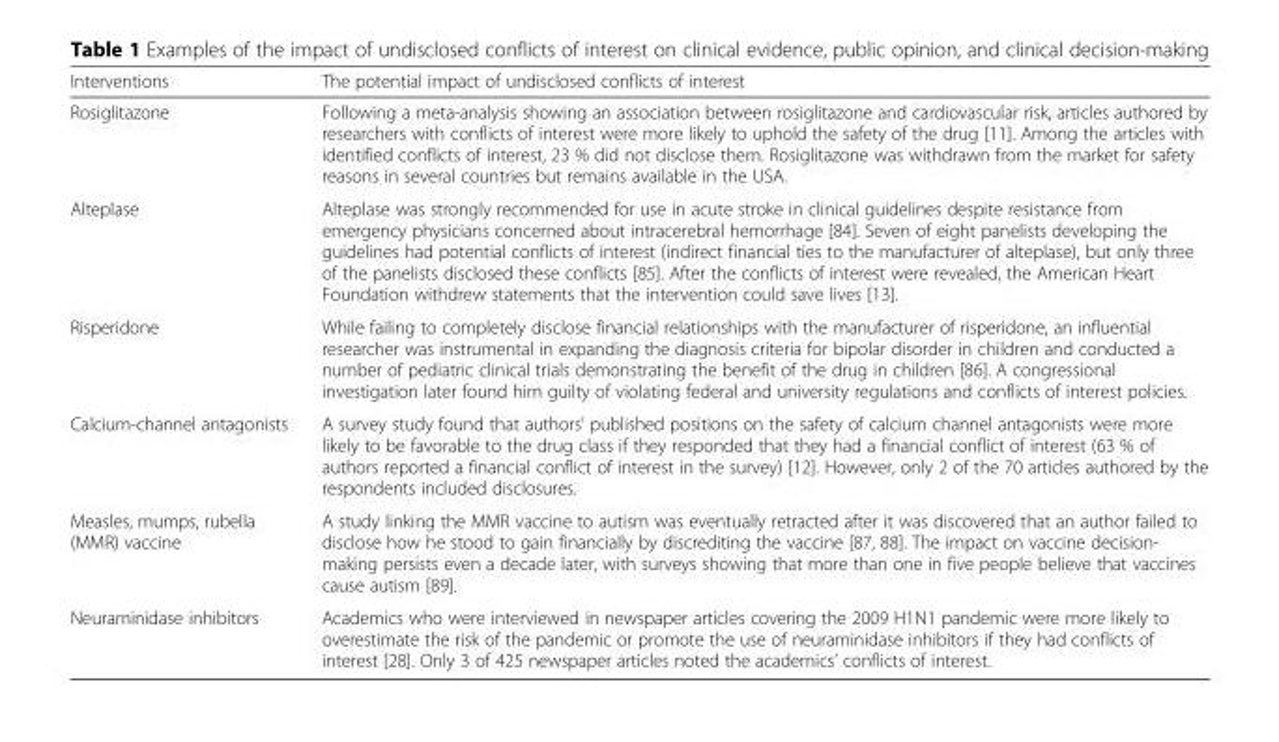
<table><thead><tr><td>Interventions</td><td>The potential impact of undisclosed conflicts of interest</td></tr></thead><tbody><tr><td>Rosiglitazone</td><td>Following a meta-analysis showing an association between rosiglitazone and cardiovascular risk, articles authored by researchers with conflicts of interest were more likely to uphold the safety of the drug [11]. Among the articles with identified conflicts of interest, 23 % did not disclose them. Rosiglitazone was withdrawn from the market for safety reasons in several countries but remains available in the USA.</td></tr><tr><td>Alteplase</td><td>Alteplase was strongly recommended for use in acute stroke in clinical guidelines despite resistance from emergency physicians concerned about intracerebral hemorrhage [84]. Seven of eight panelists developing the guidelines had potential conflicts of interest (indirect financial ties to the manufacturer of alteplase), but only three of the panelists disclosed these conflicts [85]. After the conflicts of interest were revealed, the American Heart Foundation withdrew statements that the intervention could save lives [13].</td></tr><tr><td>Risperidone</td><td>While failing to completely disclose financial relationships with the manufacturer of risperidone, an influential researcher was instrumental in expanding the diagnosis criteria for bipolar disorder in children and conducted a number of pediatric clinical trials demonstrating the benefit of the drug in children [86]. A congressional investigation later found him guilty of violating federal and university regulations and conflicts of interest policies.</td></tr><tr><td>Calcium-channel antagonists</td><td>A survey study found that authors’ published positions on the safety of calcium channel antagonists were more likely to be favorable to the drug class if they responded that they had a financial conflict of interest (63 % of authors reported a financial conflict of interest in the survey) [12]. However, only 2 of the 70 articles authored by the respondents included disclosures.</td></tr><tr><td>Measles, mumps, rubella (MMR) vaccine</td><td>A study linking the MMR vaccine to autism was eventually retracted after it was discovered that an author failed to disclose how he stood to gain financially by discrediting the vaccine [87, 88]. The impact on vaccine decision- making persists even a decade later, with surveys showing that more than one in five people believe that vaccines cause autism [89].</td></tr><tr><td>Neuraminidase inhibitors</td><td>Academics who were interviewed in newspaper articles covering the 2009 H1N1 pandemic were more likely to overestimate the risk of the pandemic or promote the use of neuraminidase inhibitors if they had conflicts of interest [28]. Only 3 of 425 newspaper articles noted the academics’ conflicts of interest.</td></tr></tbody></table>